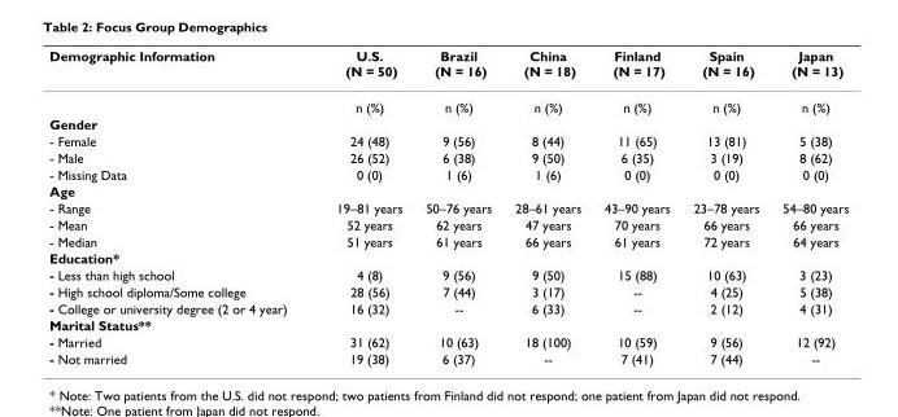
<table><thead><tr><td>Demographic Information</td><td>U.S. (N = 50)</td><td>Brazil (N = 16)</td><td>China (N = 18)</td><td>Finland (N = 17)</td><td>Spain (N = 16)</td><td>Japan (N = 13)</td></tr></thead><tbody><tr><td></td><td>n (%)</td><td>n (%)</td><td>n (%)</td><td>n (%)</td><td>n (%)</td><td>n (%)</td></tr><tr><td colspan="7">Gender</td></tr><tr><td>- Female</td><td>24 (48)</td><td>9 (56)</td><td>8 (44)</td><td>11 (65)</td><td>13 (81)</td><td>5 (38)</td></tr><tr><td>- Male</td><td>26 (52)</td><td>6 (38)</td><td>9 (50)</td><td>6 (35)</td><td>3 (19)</td><td>8 (62)</td></tr><tr><td>- Missing Data</td><td>0 (0)</td><td>1 (6)</td><td>1 (6)</td><td>0 (0)</td><td>0 (0)</td><td>0 (0)</td></tr><tr><td colspan="7">Age</td></tr><tr><td>- Range</td><td>19–81 years</td><td>50–76 years</td><td>28–61 years</td><td>43–90 years</td><td>23–78 years</td><td>54–80 years</td></tr><tr><td>- Mean</td><td>52 years</td><td>62 years</td><td>47 years</td><td>70 years</td><td>66 years</td><td>66 years</td></tr><tr><td>- Median</td><td>51 years</td><td>61 years</td><td>66 years</td><td>61 years</td><td>72 years</td><td>64 years</td></tr><tr><td colspan="7">Education*</td></tr><tr><td>- Less than high school</td><td>4 (8)</td><td>9 (56)</td><td>9 (50)</td><td>15 (88)</td><td>10 (63)</td><td>3 (23)</td></tr><tr><td>- High school diploma/Some college</td><td>28 (56)</td><td>7 (44)</td><td>3 (17)</td><td>--</td><td>4 (25)</td><td>5 (38)</td></tr><tr><td>- College or university degree (2 or 4 year)</td><td>16 (32)</td><td>--</td><td>6 (33)</td><td>--</td><td>2 (12)</td><td>4 (31)</td></tr><tr><td colspan="7">Marital Status**</td></tr><tr><td>- Married</td><td>31 (62)</td><td>10 (63)</td><td>18 (100)</td><td>10 (59)</td><td>9 (56)</td><td>12 (92)</td></tr><tr><td>- Not married</td><td>19 (38)</td><td>6 (37)</td><td>--</td><td>7 (41)</td><td>7 (44)</td><td>--</td></tr></tbody></table>